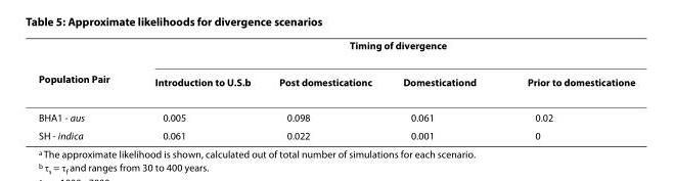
<table><thead><tr><td rowspan="2">Population Pair</td><td colspan="4">Timing of divergence</td></tr><tr><td>Introduction to U.S.<sup>b</sup></td><td>Post domestication<sup>c</sup></td><td>Domestication<sup>d</sup></td><td>Prior to domestication<sup>e</sup></td></tr></thead><tbody><tr><td>BHA1 - aus</td><td>0.005</td><td>0.098</td><td>0.061</td><td>0.02</td></tr><tr><td>SH - indica</td><td>0.061</td><td>0.022</td><td>0.001</td><td>0</td></tr></tbody></table>